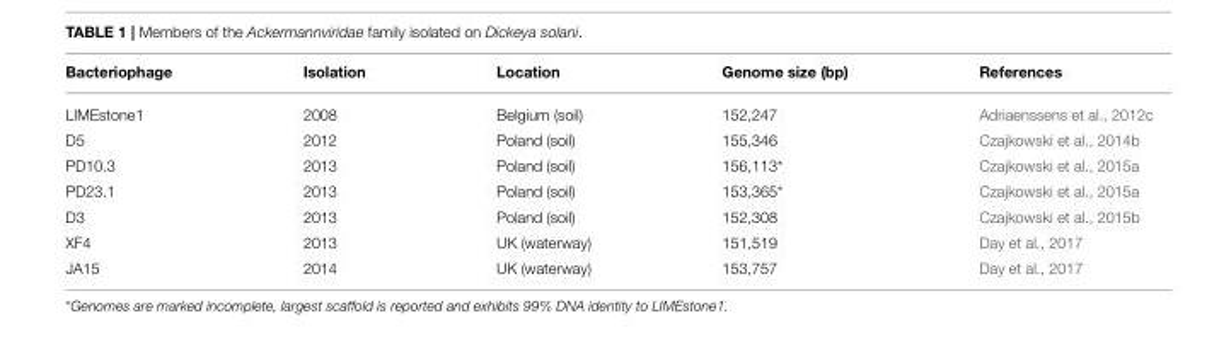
<table><thead><tr><td>Bacteriophage</td><td>Isolation</td><td>Location</td><td>Genome size (bp)</td><td>References</td></tr></thead><tbody><tr><td>LIMEstone1</td><td>2008</td><td>Belgium (soil)</td><td>152,247</td><td>Adriaenssens et al., 2012c</td></tr><tr><td>D5</td><td>2012</td><td>Poland (soil)</td><td>155,346</td><td>Czajkowski et al., 2014b</td></tr><tr><td>PD10.3</td><td>2013</td><td>Poland (soil)</td><td>156,113*</td><td>Czajkowski et al., 2015a</td></tr><tr><td>PD23.1</td><td>2013</td><td>Poland (soil)</td><td>153,365*</td><td>Czajkowski et al., 2015a</td></tr><tr><td>D3</td><td>2013</td><td>Poland (soil)</td><td>152,308</td><td>Czajkowski et al., 2015b</td></tr><tr><td>XF4</td><td>2013</td><td>UK (waterway)</td><td>151,519</td><td>Day et al., 2017</td></tr><tr><td>JA15</td><td>2014</td><td>UK (waterway)</td><td>153,757</td><td>Day et al., 2017</td></tr></tbody></table>